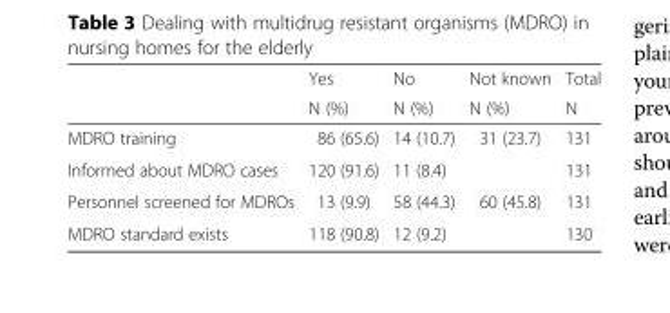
<table><thead><tr><td rowspan="2"></td><td rowspan="2">Yes N (%)</td><td rowspan="2">No N (%)</td><td rowspan="2">Not known N (%)</td><td rowspan="2">Total N</td></tr><tr></tr></thead><tbody><tr><td>MDRO training</td><td>86 (65.6)</td><td>14 (10.7)</td><td>31 (23.7)</td><td>131</td></tr><tr><td>Informed about MDRO cases</td><td>120 (91.6)</td><td>11 (8.4)</td><td></td><td>131</td></tr><tr><td>Personnel screened for MDROs</td><td>13 (9.9)</td><td>58 (44.3)</td><td>60 (45.8)</td><td>131</td></tr><tr><td>MDRO standard exists</td><td>118 (90.8)</td><td>12 (9.2)</td><td></td><td>130</td></tr></tbody></table>